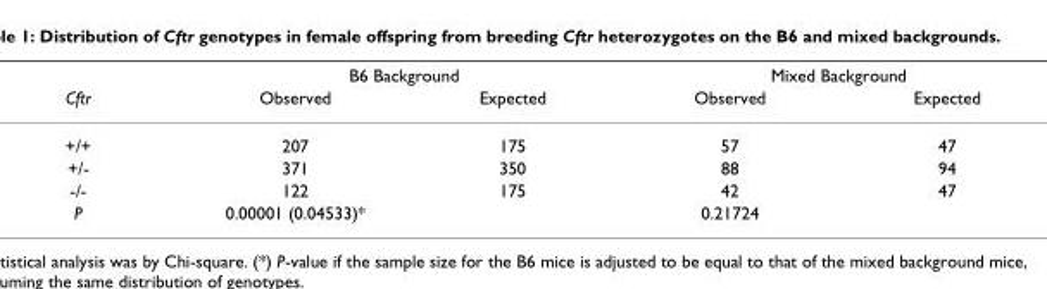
<table><thead><tr><td rowspan="2">Cftr</td><td colspan="2">B6 Background</td><td colspan="2">Mixed Background</td></tr><tr><td>Observed</td><td>Expected</td><td>Observed</td><td>Expected</td></tr></thead><tbody><tr><td>+/+</td><td>207</td><td>175</td><td>57</td><td>47</td></tr><tr><td>+/-</td><td>371</td><td>350</td><td>88</td><td>94</td></tr><tr><td>-/-</td><td>122</td><td>175</td><td>42</td><td>47</td></tr><tr><td>P</td><td>0.00001 (0.04533)*</td><td></td><td>0.21724</td><td></td></tr></tbody></table>